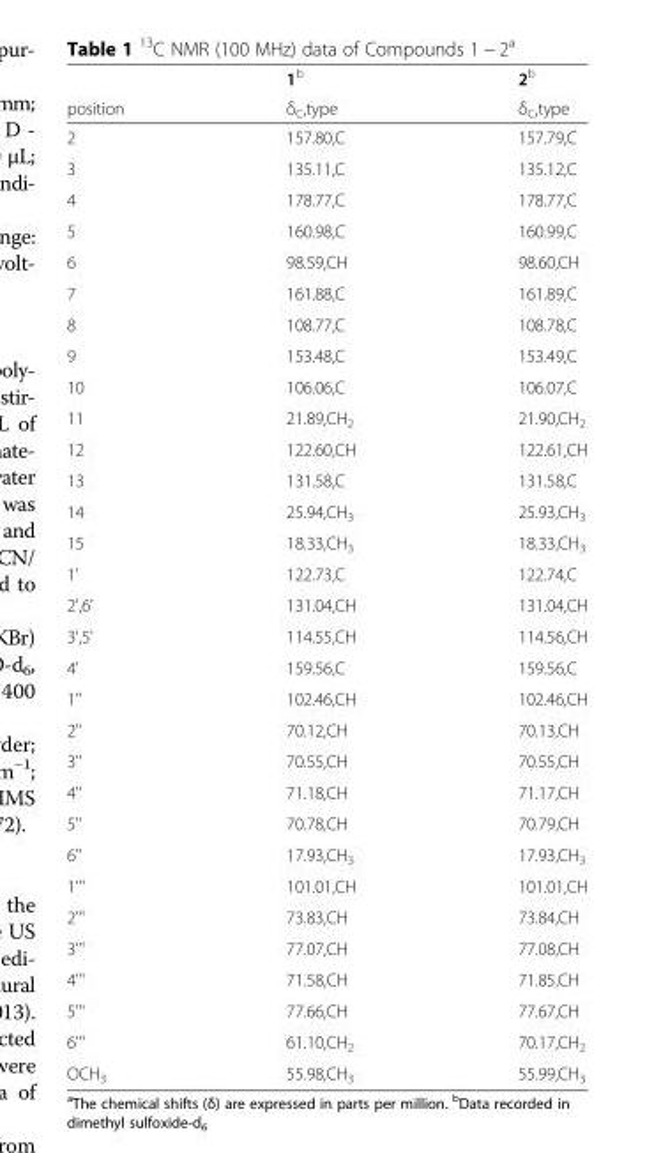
<table><thead><tr><td rowspan="2">position</td><td rowspan="2">1<sup>b</sup> δ<sub>C</sub>,type</td><td rowspan="2">2<sup>b</sup> δ<sub>C</sub>,type</td></tr><tr></tr></thead><tbody><tr><td>2</td><td>157.80,C</td><td>157.79,C</td></tr><tr><td>3</td><td>135.11,C</td><td>135.12,C</td></tr><tr><td>4</td><td>178.77,C</td><td>178.77,C</td></tr><tr><td>5</td><td>160.98,C</td><td>160.99,C</td></tr><tr><td>6</td><td>98.59,CH</td><td>98.60,CH</td></tr><tr><td>7</td><td>161.88,C</td><td>161.89,C</td></tr><tr><td>8</td><td>108.77,C</td><td>108.78,C</td></tr><tr><td>9</td><td>153.48,C</td><td>153.49,C</td></tr><tr><td>10</td><td>106.06,C</td><td>106.07,C</td></tr><tr><td>11</td><td>21.89,CH<sub>2</sub></td><td>21.90,CH<sub>2</sub></td></tr><tr><td>12</td><td>122.60,CH</td><td>122.61,CH</td></tr><tr><td>13</td><td>131.58,C</td><td>131.58,C</td></tr><tr><td>14</td><td>25.94,CH<sub>3</sub></td><td>25.93,CH<sub>3</sub></td></tr><tr><td>15</td><td>18.33,CH<sub>3</sub></td><td>18.33,CH<sub>3</sub></td></tr><tr><td>1&#x27;</td><td>122.73,C</td><td>122.74,C</td></tr><tr><td>2&#x27;,6&#x27;</td><td>131.04,CH</td><td>131.04,CH</td></tr><tr><td>3&#x27;,5&#x27;</td><td>114.55,CH</td><td>114.56,CH</td></tr><tr><td>4&#x27;</td><td>159.56,C</td><td>159.56,C</td></tr><tr><td>1&#x27;&#x27;</td><td>102.46,CH</td><td>102.46,CH</td></tr><tr><td>2&#x27;&#x27;</td><td>70.12,CH</td><td>70.13,CH</td></tr><tr><td>3&#x27;&#x27;</td><td>70.55,CH</td><td>70.55,CH</td></tr><tr><td>4&#x27;&#x27;</td><td>71.18,CH</td><td>71.17,CH</td></tr><tr><td>5&#x27;&#x27;</td><td>70.78,CH</td><td>70.79,CH</td></tr><tr><td>6&#x27;&#x27;</td><td>17.93,CH<sub>3</sub></td><td>17.93,CH<sub>3</sub></td></tr><tr><td>1&#x27;&#x27;&#x27;</td><td>101.01,CH</td><td>101.01,CH</td></tr><tr><td>2&#x27;&#x27;&#x27;</td><td>73.83,CH</td><td>73.84,CH</td></tr><tr><td>3&#x27;&#x27;&#x27;</td><td>77.07,CH</td><td>77.08,CH</td></tr><tr><td>4&#x27;&#x27;&#x27;</td><td>71.58,CH</td><td>71.85,CH</td></tr><tr><td>5&#x27;&#x27;&#x27;</td><td>77.66,CH</td><td>77.67,CH</td></tr><tr><td>6&#x27;&#x27;&#x27;</td><td>61.10,CH<sub>2</sub></td><td>70.17,CH<sub>2</sub></td></tr><tr><td>OCH<sub>3</sub></td><td>55.98,CH<sub>3</sub></td><td>55.99,CH<sub>3</sub></td></tr></tbody></table>